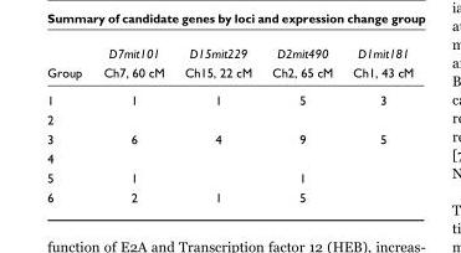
<table><thead><tr><td rowspan="2">Group</td><td rowspan="2">D7mit101 Ch7, 60 cM</td><td rowspan="2">D15mit229 Ch15, 22 cM</td><td rowspan="2">D2mit490 Ch2, 65 cM</td><td rowspan="2">D1mit181 Ch1, 43 cM</td></tr><tr></tr></thead><tbody><tr><td>1</td><td>1</td><td>1</td><td>5</td><td>3</td></tr><tr><td colspan="5">2</td></tr><tr><td>3</td><td>6</td><td>4</td><td>9</td><td>5</td></tr><tr><td colspan="5">4</td></tr><tr><td>5</td><td>1</td><td></td><td>1</td><td></td></tr><tr><td>6</td><td>2</td><td>1</td><td>5</td><td></td></tr></tbody></table>